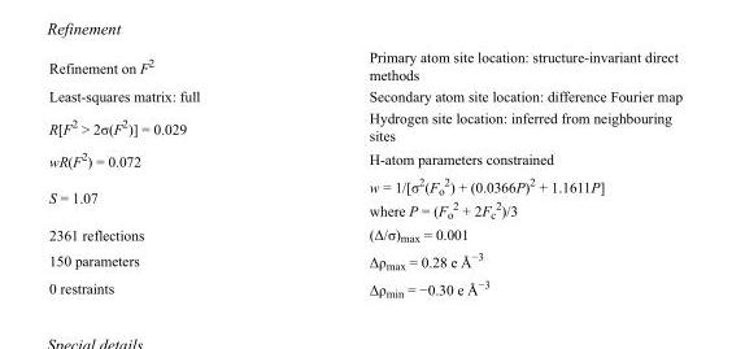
<table><tbody><tr><td>Refinement on F<sup>2</sup></td><td>Primary atom site location: structure-invariant direct methods</td></tr><tr><td>Least-squares matrix: full</td><td>Secondary atom site location: difference Fourier map</td></tr><tr><td>R[F<sup>2</sup> &gt; 2σ(F<sup>2</sup>)] = 0.029</td><td>Hydrogen site location: inferred from neighbouring sites</td></tr><tr><td>wR(F<sup>2</sup>) = 0.072</td><td>H-atom parameters constrained</td></tr><tr><td>S = 1.07</td><td>w = 1/[σ<sup>2</sup>(F<sub>o</sub> <sup>2</sup>) + (0.0366P)<sup>2</sup> + 1.1611P] where P = (F<sub>o</sub> <sup>2</sup> + 2F<sub>c</sub> <sup>2</sup>)/3</td></tr><tr><td>2361 reflections</td><td>(Δ/σ)<sub>max</sub> = 0.001</td></tr><tr><td>150 parameters</td><td>Δρ<sub>max</sub> = 0.28 e Å<sup>−3</sup></td></tr><tr><td>0 restraints</td><td>Δρ<sub>min</sub> = −0.30 e Å<sup>−3</sup></td></tr></tbody></table>